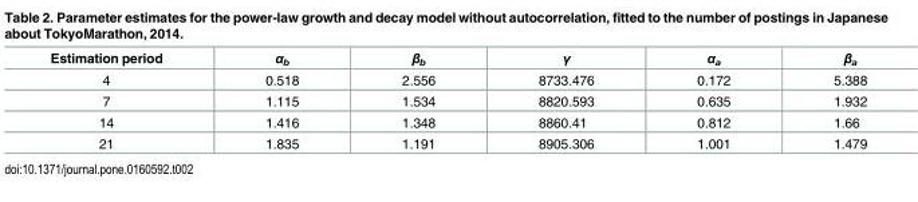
<table><thead><tr><td>Estimation period</td><td>α<sub>b</sub></td><td>β<sub>b</sub></td><td>γ</td><td>α<sub>a</sub></td><td>β<sub>a</sub></td></tr></thead><tbody><tr><td>4</td><td>0.518</td><td>2.556</td><td>8733.476</td><td>0.172</td><td>5.388</td></tr><tr><td>7</td><td>1.115</td><td>1.534</td><td>8820.593</td><td>0.635</td><td>1.932</td></tr><tr><td>14</td><td>1.416</td><td>1.348</td><td>8860.41</td><td>0.812</td><td>1.66</td></tr><tr><td>21</td><td>1.835</td><td>1.191</td><td>8905.306</td><td>1.001</td><td>1.479</td></tr></tbody></table>